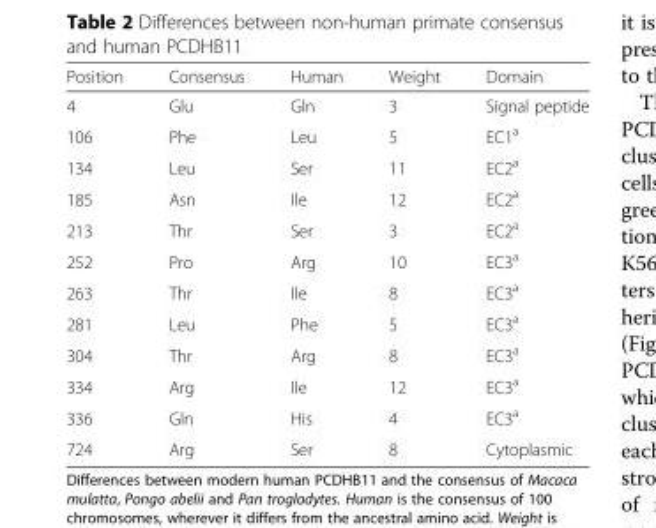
<table><thead><tr><td>Position</td><td>Consensus</td><td>Human</td><td>Weight</td><td>Domain</td></tr></thead><tbody><tr><td>4</td><td>Glu</td><td>Gln</td><td>3</td><td>Signal peptide</td></tr><tr><td>106</td><td>Phe</td><td>Leu</td><td>5</td><td>EC1<sup>a</sup></td></tr><tr><td>134</td><td>Leu</td><td>Ser</td><td>11</td><td>EC2<sup>a</sup></td></tr><tr><td>185</td><td>Asn</td><td>Ile</td><td>12</td><td>EC2<sup>a</sup></td></tr><tr><td>213</td><td>Thr</td><td>Ser</td><td>3</td><td>EC2<sup>a</sup></td></tr><tr><td>252</td><td>Pro</td><td>Arg</td><td>10</td><td>EC3<sup>a</sup></td></tr><tr><td>263</td><td>Thr</td><td>Ile</td><td>8</td><td>EC3<sup>a</sup></td></tr><tr><td>281</td><td>Leu</td><td>Phe</td><td>5</td><td>EC3<sup>a</sup></td></tr><tr><td>304</td><td>Thr</td><td>Arg</td><td>8</td><td>EC3<sup>a</sup></td></tr><tr><td>334</td><td>Arg</td><td>Ile</td><td>12</td><td>EC3<sup>a</sup></td></tr><tr><td>336</td><td>Gln</td><td>His</td><td>4</td><td>EC3<sup>a</sup></td></tr><tr><td>724</td><td>Arg</td><td>Ser</td><td>8</td><td>Cytoplasmic</td></tr></tbody></table>